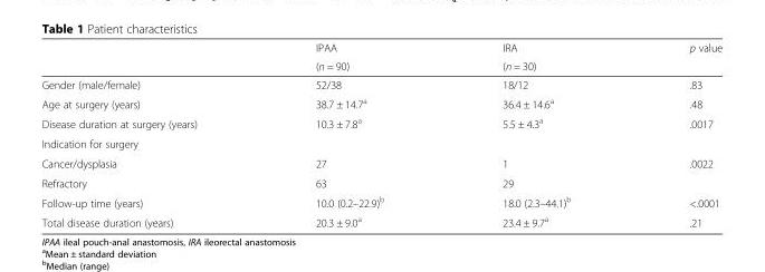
<table><thead><tr><td rowspan="2"></td><td rowspan="2">IPAA (n = 90)</td><td rowspan="2">IRA (n = 30)</td><td rowspan="2">p value</td></tr><tr></tr></thead><tbody><tr><td>Gender (male/female)</td><td>52/38</td><td>18/12</td><td>.83</td></tr><tr><td>Age at surgery (years)</td><td>38.7 ± 14.7<sup>a</sup></td><td>36.4 ± 14.6<sup>a</sup></td><td>.48</td></tr><tr><td>Disease duration at surgery (years)</td><td>10.3 ± 7.8<sup>a</sup></td><td>5.5 ± 4.3<sup>a</sup></td><td>.0017</td></tr><tr><td colspan="4">Indication for surgery</td></tr><tr><td>Cancer/dysplasia</td><td>27</td><td>1</td><td>.0022</td></tr><tr><td>Refractory</td><td>63</td><td>29</td><td></td></tr><tr><td>Follow-up time (years)</td><td>10.0 (0.2–22.9)<sup>b</sup></td><td>18.0 (2.3–44.1)<sup>b</sup></td><td>&lt;.0001</td></tr><tr><td>Total disease duration (years)</td><td>20.3 ± 9.0<sup>a</sup></td><td>23.4 ± 9.7<sup>a</sup></td><td>.21</td></tr></tbody></table>